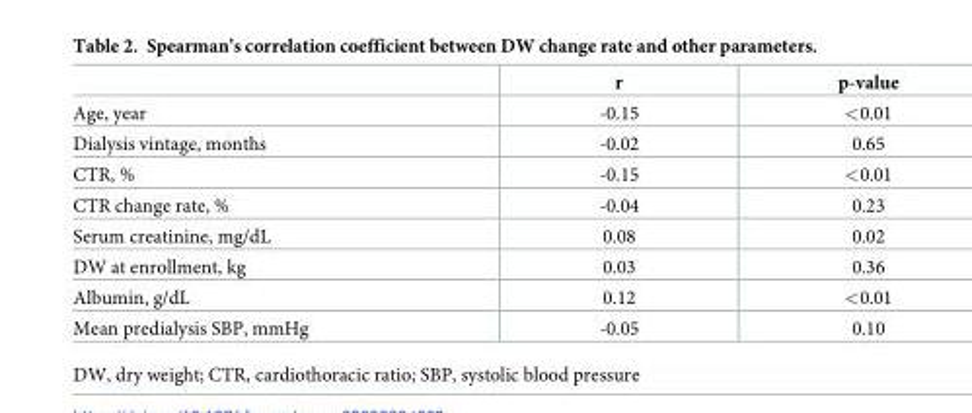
<table><thead><tr><td></td><td>r</td><td>p-value</td></tr></thead><tbody><tr><td>Age, year</td><td>-0.15</td><td>&lt;0.01</td></tr><tr><td>Dialysis vintage, months</td><td>-0.02</td><td>0.65</td></tr><tr><td>CTR, %</td><td>-0.15</td><td>&lt;0.01</td></tr><tr><td>CTR change rate, %</td><td>-0.04</td><td>0.23</td></tr><tr><td>Serum creatinine, mg/dL</td><td>0.08</td><td>0.02</td></tr><tr><td>DW at enrollment, kg</td><td>0.03</td><td>0.36</td></tr><tr><td>Albumin, g/dL</td><td>0.12</td><td>&lt;0.01</td></tr><tr><td>Mean predialysis SBP, mmHg</td><td>-0.05</td><td>0.10</td></tr></tbody></table>